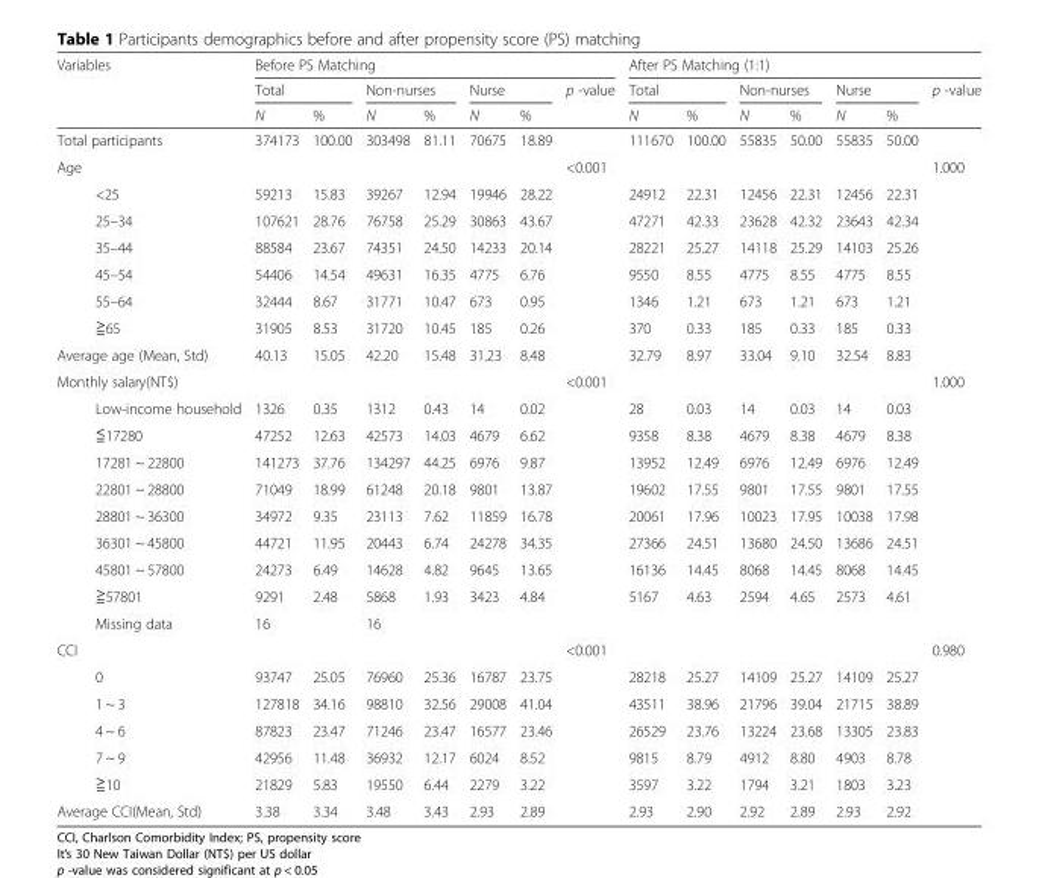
<table><thead><tr><td rowspan="4" colspan="2">Variables Total participants</td><td colspan="7">Before PS Matching</td><td colspan="7">After PS Matching (1:1)</td></tr><tr><td colspan="2">Total</td><td colspan="2">Non-nurses</td><td colspan="2">Nurse</td><td rowspan="4">p -value &lt;0.001</td><td colspan="2">Total</td><td colspan="2">Non-nurses</td><td colspan="2">Nurse</td><td rowspan="4">p -value 1.000</td></tr><tr><td rowspan="3">N 374173</td><td rowspan="3">% 100.00</td><td rowspan="3">N 303498</td><td rowspan="3">% 81.11</td><td rowspan="3">N 70675</td><td rowspan="3">% 18.89</td><td rowspan="3">N 111670</td><td rowspan="3">% 100.00</td><td rowspan="3">N 55835</td><td rowspan="3">% 50.00</td><td rowspan="3">N 55835</td><td rowspan="3">% 50.00</td></tr><tr></tr><tr><td>Age</td><td></td></tr></thead><tbody><tr><td></td><td>&lt;25</td><td>59213</td><td>15.83</td><td>39267</td><td>12.94</td><td>19946</td><td>28.22</td><td></td><td>24912</td><td>22.31</td><td>12456</td><td>22.31</td><td>12456</td><td>22.31</td><td></td></tr><tr><td></td><td>25–34</td><td>107621</td><td>28.76</td><td>76758</td><td>25.29</td><td>30863</td><td>43.67</td><td></td><td>47271</td><td>42.33</td><td>23628</td><td>42.32</td><td>23643</td><td>42.34</td><td></td></tr><tr><td></td><td>35–44</td><td>88584</td><td>23.67</td><td>74351</td><td>24.50</td><td>14233</td><td>20.14</td><td></td><td>28221</td><td>25.27</td><td>14118</td><td>25.29</td><td>14103</td><td>25.26</td><td></td></tr><tr><td></td><td>45–54</td><td>54406</td><td>14.54</td><td>49631</td><td>16.35</td><td>4775</td><td>6.76</td><td></td><td>9550</td><td>8.55</td><td>4775</td><td>8.55</td><td>4775</td><td>8.55</td><td></td></tr><tr><td></td><td>55–64</td><td>32444</td><td>8.67</td><td>31771</td><td>10.47</td><td>673</td><td>0.95</td><td></td><td>1346</td><td>1.21</td><td>673</td><td>1.21</td><td>673</td><td>1.21</td><td></td></tr><tr><td></td><td>≧65</td><td>31905</td><td>8.53</td><td>31720</td><td>10.45</td><td>185</td><td>0.26</td><td></td><td>370</td><td>0.33</td><td>185</td><td>0.33</td><td>185</td><td>0.33</td><td></td></tr><tr><td colspan="2">Average age (Mean, Std)</td><td>40.13</td><td>15.05</td><td>42.20</td><td>15.48</td><td>31.23</td><td>8.48</td><td></td><td>32.79</td><td>8.97</td><td>33.04</td><td>9.10</td><td>32.54</td><td>8.83</td><td></td></tr><tr><td colspan="2">Monthly salary(NT$)</td><td></td><td></td><td></td><td></td><td></td><td></td><td>&lt;0.001</td><td></td><td></td><td></td><td></td><td></td><td></td><td>1.000</td></tr><tr><td></td><td>Low-income household</td><td>1326</td><td>0.35</td><td>1312</td><td>0.43</td><td>14</td><td>0.02</td><td></td><td>28</td><td>0.03</td><td>14</td><td>0.03</td><td>14</td><td>0.03</td><td></td></tr><tr><td></td><td>≦17280</td><td>47252</td><td>12.63</td><td>42573</td><td>14.03</td><td>4679</td><td>6.62</td><td></td><td>9358</td><td>8.38</td><td>4679</td><td>8.38</td><td>4679</td><td>8.38</td><td></td></tr><tr><td></td><td>17281 ~ 22800</td><td>141273</td><td>37.76</td><td>134297</td><td>44.25</td><td>6976</td><td>9.87</td><td></td><td>13952</td><td>12.49</td><td>6976</td><td>12.49</td><td>6976</td><td>12.49</td><td></td></tr><tr><td></td><td>22801 ~ 28800</td><td>71049</td><td>18.99</td><td>61248</td><td>20.18</td><td>9801</td><td>13.87</td><td></td><td>19602</td><td>17.55</td><td>9801</td><td>17.55</td><td>9801</td><td>17.55</td><td></td></tr><tr><td></td><td>28801 ~ 36300</td><td>34972</td><td>9.35</td><td>23113</td><td>7.62</td><td>11859</td><td>16.78</td><td></td><td>20061</td><td>17.96</td><td>10023</td><td>17.95</td><td>10038</td><td>17.98</td><td></td></tr><tr><td></td><td>36301 ~ 45800</td><td>44721</td><td>11.95</td><td>20443</td><td>6.74</td><td>24278</td><td>34.35</td><td></td><td>27366</td><td>24.51</td><td>13680</td><td>24.50</td><td>13686</td><td>24.51</td><td></td></tr><tr><td></td><td>45801 ~ 57800</td><td>24273</td><td>6.49</td><td>14628</td><td>4.82</td><td>9645</td><td>13.65</td><td></td><td>16136</td><td>14.45</td><td>8068</td><td>14.45</td><td>8068</td><td>14.45</td><td></td></tr><tr><td></td><td>≧57801</td><td>9291</td><td>2.48</td><td>5868</td><td>1.93</td><td>3423</td><td>4.84</td><td></td><td>5167</td><td>4.63</td><td>2594</td><td>4.65</td><td>2573</td><td>4.61</td><td></td></tr><tr><td></td><td>Missing data</td><td>16</td><td></td><td>16</td><td></td><td></td><td></td><td></td><td></td><td></td><td></td><td></td><td></td><td></td><td></td></tr><tr><td colspan="2">CCI</td><td></td><td></td><td></td><td></td><td></td><td></td><td>&lt;0.001</td><td></td><td></td><td></td><td></td><td></td><td></td><td>0.980</td></tr><tr><td></td><td>0</td><td>93747</td><td>25.05</td><td>76960</td><td>25.36</td><td>16787</td><td>23.75</td><td></td><td>28218</td><td>25.27</td><td>14109</td><td>25.27</td><td>14109</td><td>25.27</td><td></td></tr><tr><td></td><td>1 ~ 3</td><td>127818</td><td>34.16</td><td>98810</td><td>32.56</td><td>29008</td><td>41.04</td><td></td><td>43511</td><td>38.96</td><td>21796</td><td>39.04</td><td>21715</td><td>38.89</td><td></td></tr><tr><td></td><td>4 ~ 6</td><td>87823</td><td>23.47</td><td>71246</td><td>23.47</td><td>16577</td><td>23.46</td><td></td><td>26529</td><td>23.76</td><td>13224</td><td>23.68</td><td>13305</td><td>23.83</td><td></td></tr><tr><td></td><td>7 ~ 9</td><td>42956</td><td>11.48</td><td>36932</td><td>12.17</td><td>6024</td><td>8.52</td><td></td><td>9815</td><td>8.79</td><td>4912</td><td>8.80</td><td>4903</td><td>8.78</td><td></td></tr><tr><td></td><td>≧10</td><td>21829</td><td>5.83</td><td>19550</td><td>6.44</td><td>2279</td><td>3.22</td><td></td><td>3597</td><td>3.22</td><td>1794</td><td>3.21</td><td>1803</td><td>3.23</td><td></td></tr><tr><td colspan="2">Average CCI(Mean, Std)</td><td>3.38</td><td>3.34</td><td>3.48</td><td>3.43</td><td>2.93</td><td>2.89</td><td></td><td>2.93</td><td>2.90</td><td>2.92</td><td>2.89</td><td>2.93</td><td>2.92</td><td></td></tr></tbody></table>